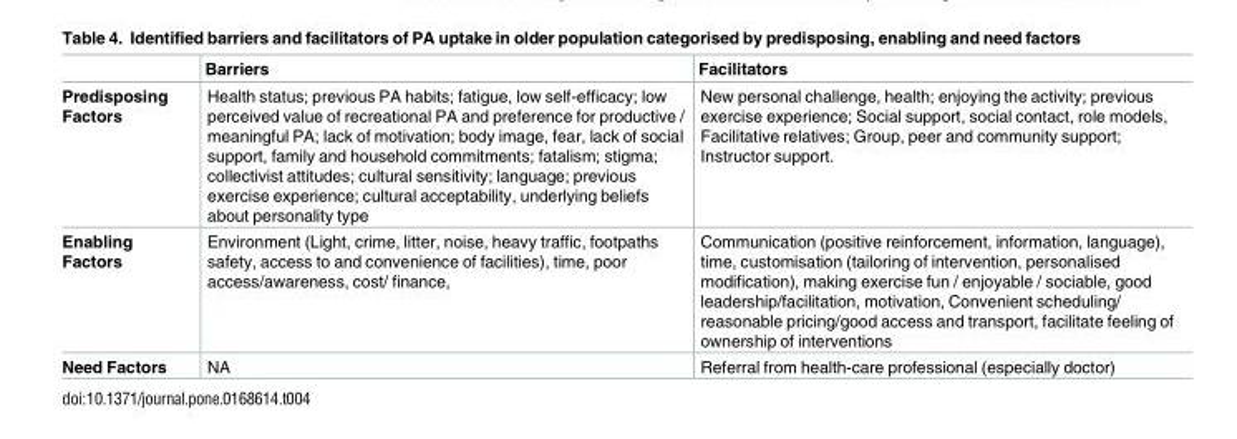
<table><thead><tr><td></td><td>Barriers</td><td>Facilitators</td></tr></thead><tbody><tr><td>Predisposing Factors</td><td>Health status; previous PA habits; fatigue, low self-efficacy; low perceived value of recreational PA and preference for productive / meaningful PA; lack of motivation; body image, fear, lack of social support, family and household commitments; fatalism; stigma; collectivist attitudes; cultural sensitivity; language; previous exercise experience; cultural acceptability, underlying beliefs about personality type</td><td>New personal challenge, health; enjoying the activity; previous exercise experience; Social support, social contact, role models, Facilitative relatives; Group, peer and community support; Instructor support.</td></tr><tr><td>Enabling Factors</td><td>Environment (Light, crime, litter, noise, heavy traffic, footpaths safety, access to and convenience of facilities), time, poor access/awareness, cost/ finance,</td><td>Communication (positive reinforcement, information, language), time, customisation (tailoring of intervention, personalised modification), making exercise fun / enjoyable / sociable, good leadership/facilitation, motivation, Convenient scheduling/ reasonable pricing/good access and transport, facilitate feeling of ownership of interventions</td></tr><tr><td>Need Factors</td><td>NA</td><td>Referral from health-care professional (especially doctor)</td></tr></tbody></table>